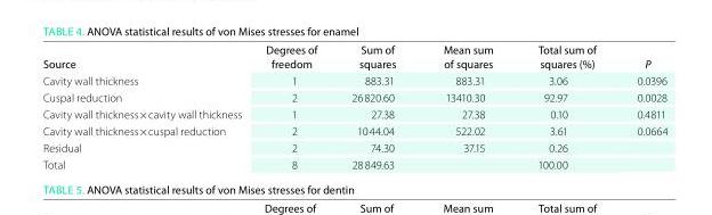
<table><thead><tr><td>source</td><td>Degrees of freedom</td><td>sum of squares</td><td>Mean sum of squares</td><td>total sum of squares (%)</td><td>P</td></tr></thead><tbody><tr><td>Cavity wall thickness</td><td>1</td><td>883.31</td><td>883.31</td><td>3.06</td><td>0.0396</td></tr><tr><td>Cuspal reduction</td><td>2</td><td>26 820.60</td><td>13410.30</td><td>92.97</td><td>0.0028</td></tr><tr><td>Cavity wall thickness × cavity wall thickness</td><td>1</td><td>27.38</td><td>27.38</td><td>0.10</td><td>0.4811</td></tr><tr><td>Cavity wall thickness × cuspal reduction</td><td>2</td><td>10 44.04</td><td>522.02</td><td>3.61</td><td>0.0664</td></tr><tr><td>Residual</td><td>2</td><td>74.30</td><td>37.15</td><td>0.26</td><td></td></tr><tr><td>Total</td><td>8</td><td>28 849.63</td><td></td><td>100.00</td><td></td></tr></tbody></table>